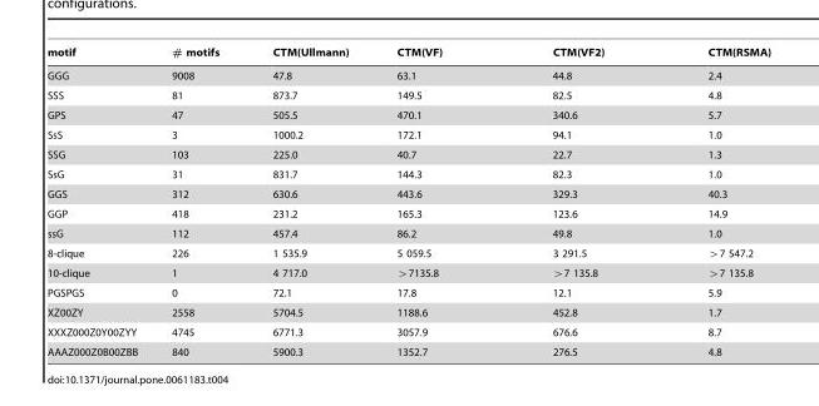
<table><thead><tr><td>motif</td><td># motifs</td><td>CTM(Ullmann)</td><td>CTM(VF)</td><td>CTM(VF2)</td><td>CTM(RSMA)</td></tr></thead><tbody><tr><td>GGG</td><td>9008</td><td>47.8</td><td>63.1</td><td>44.8</td><td>2.4</td></tr><tr><td>SSS</td><td>81</td><td>873.7</td><td>149.5</td><td>82.5</td><td>4.8</td></tr><tr><td>GPS</td><td>47</td><td>505.5</td><td>470.1</td><td>340.6</td><td>5.7</td></tr><tr><td>SsS</td><td>3</td><td>1000.2</td><td>172.1</td><td>94.1</td><td>1.0</td></tr><tr><td>SSG</td><td>103</td><td>225.0</td><td>40.7</td><td>22.7</td><td>1.3</td></tr><tr><td>SsG</td><td>31</td><td>831.7</td><td>144.3</td><td>82.3</td><td>1.0</td></tr><tr><td>GGS</td><td>312</td><td>630.6</td><td>443.6</td><td>329.3</td><td>40.3</td></tr><tr><td>GGP</td><td>418</td><td>231.2</td><td>165.3</td><td>123.6</td><td>14.9</td></tr><tr><td>ssG</td><td>112</td><td>457.4</td><td>86.2</td><td>49.8</td><td>1.0</td></tr><tr><td>8-clique</td><td>226</td><td>1 535.9</td><td>5 059.5</td><td>3 291.5</td><td>w7 547.2</td></tr><tr><td>10-clique</td><td>1</td><td>4 717.0</td><td>w7135.8</td><td>w7 135.8</td><td>w7 135.8</td></tr><tr><td>PGSPGS</td><td>0</td><td>72.1</td><td>17.8</td><td>12.1</td><td>5.9</td></tr><tr><td>XZ00ZY</td><td>2558</td><td>5704.5</td><td>1188.6</td><td>452.8</td><td>1.7</td></tr><tr><td>XXXZ000Z0Y00ZYY</td><td>4745</td><td>6771.3</td><td>3057.9</td><td>676.6</td><td>8.7</td></tr><tr><td>AAAZ000Z0B00ZBB</td><td>840</td><td>5900.3</td><td>1352.7</td><td>276.5</td><td>4.8</td></tr></tbody></table>